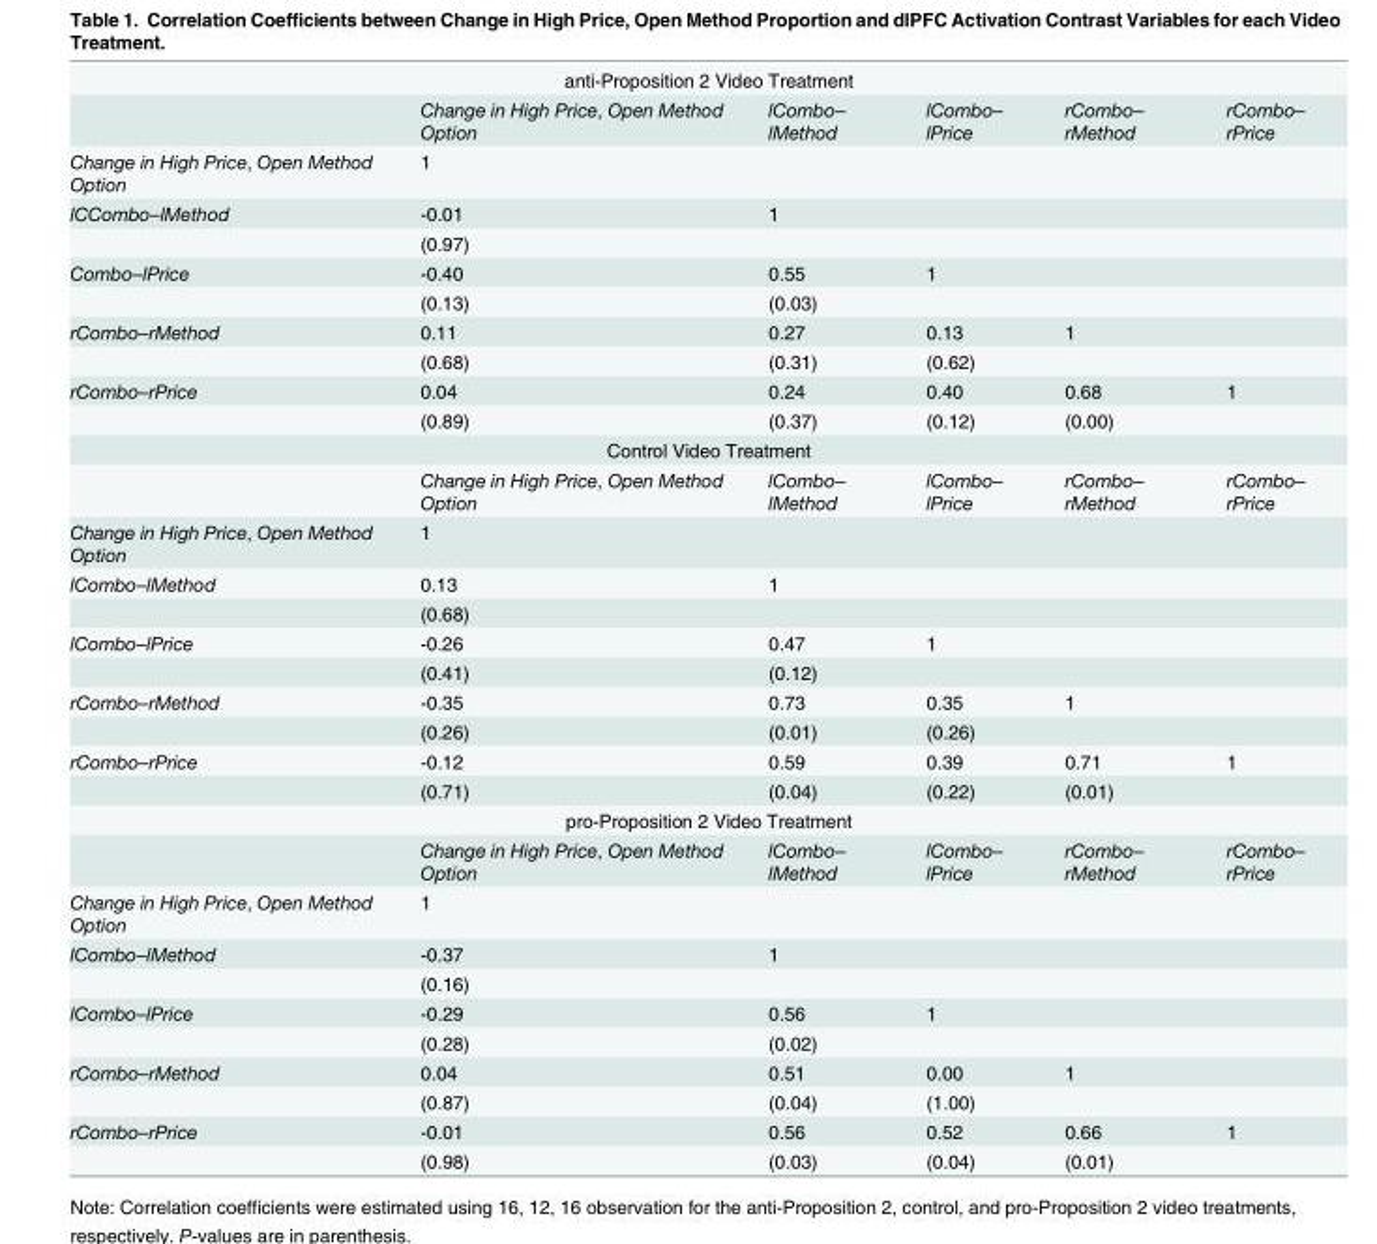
<table><tbody><tr><td colspan="6">anti-Proposition 2 Video Treatment</td></tr><tr><td></td><td>Change in High Price, Open Method Option</td><td>lCombo– lMethod</td><td>lCombo– lPrice</td><td>rCombo– rMethod</td><td>rCombo– rPrice</td></tr><tr><td>Change in High Price, Open Method Option</td><td>1</td><td></td><td></td><td></td><td></td></tr><tr><td rowspan="2">lCCombo–lMethod</td><td>-0.01</td><td>1</td><td></td><td></td><td></td></tr><tr><td>(0.97)</td><td></td><td></td><td></td><td></td></tr><tr><td rowspan="2">Combo–lPrice</td><td>-0.40</td><td>0.55</td><td>1</td><td></td><td></td></tr><tr><td>(0.13)</td><td>(0.03)</td><td></td><td></td><td></td></tr><tr><td rowspan="2">rCombo–rMethod</td><td>0.11</td><td>0.27</td><td>0.13</td><td>1</td><td></td></tr><tr><td>(0.68)</td><td>(0.31)</td><td>(0.62)</td><td></td><td></td></tr><tr><td rowspan="2">rCombo–rPrice</td><td>0.04</td><td>0.24</td><td>0.40</td><td>0.68</td><td>1</td></tr><tr><td>(0.89)</td><td>(0.37)</td><td>(0.12)</td><td>(0.00)</td><td></td></tr><tr><td colspan="6">Control Video Treatment</td></tr><tr><td></td><td>Change in High Price, Open Method Option</td><td>lCombo– lMethod</td><td>lCombo– lPrice</td><td>rCombo– rMethod</td><td>rCombo– rPrice</td></tr><tr><td>Change in High Price, Open Method Option</td><td>1</td><td></td><td></td><td></td><td></td></tr><tr><td rowspan="2">lCombo–lMethod</td><td>0.13</td><td>1</td><td></td><td></td><td></td></tr><tr><td>(0.68)</td><td></td><td></td><td></td><td></td></tr><tr><td rowspan="2">lCombo–lPrice</td><td>-0.26</td><td>0.47</td><td>1</td><td></td><td></td></tr><tr><td>(0.41)</td><td>(0.12)</td><td></td><td></td><td></td></tr><tr><td rowspan="2">rCombo–rMethod</td><td>-0.35</td><td>0.73</td><td>0.35</td><td>1</td><td></td></tr><tr><td>(0.26)</td><td>(0.01)</td><td>(0.26)</td><td></td><td></td></tr><tr><td rowspan="2">rCombo–rPrice</td><td>-0.12</td><td>0.59</td><td>0.39</td><td>0.71</td><td>1</td></tr><tr><td>(0.71)</td><td>(0.04)</td><td>(0.22)</td><td>(0.01)</td><td></td></tr><tr><td colspan="6">pro-Proposition 2 Video Treatment</td></tr><tr><td></td><td>Change in High Price, Open Method Option</td><td>lCombo– lMethod</td><td>lCombo– lPrice</td><td>rCombo– rMethod</td><td>rCombo– rPrice</td></tr><tr><td>Change in High Price, Open Method Option</td><td>1</td><td></td><td></td><td></td><td></td></tr><tr><td rowspan="2">lCombo–lMethod</td><td>-0.37</td><td>1</td><td></td><td></td><td></td></tr><tr><td>(0.16)</td><td></td><td></td><td></td><td></td></tr><tr><td rowspan="2">lCombo–lPrice</td><td>-0.29</td><td>0.56</td><td>1</td><td></td><td></td></tr><tr><td>(0.28)</td><td>(0.02)</td><td></td><td></td><td></td></tr><tr><td rowspan="2">rCombo–rMethod</td><td>0.04</td><td>0.51</td><td>0.00</td><td>1</td><td></td></tr><tr><td>(0.87)</td><td>(0.04)</td><td>(1.00)</td><td></td><td></td></tr><tr><td rowspan="2">rCombo–rPrice</td><td>-0.01</td><td>0.56</td><td>0.52</td><td>0.66</td><td>1</td></tr><tr><td>(0.98)</td><td>(0.03)</td><td>(0.04)</td><td>(0.01)</td><td></td></tr></tbody></table>